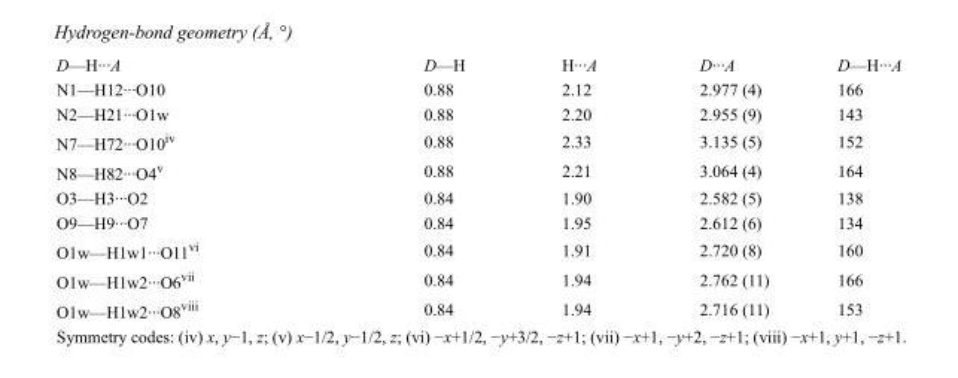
<table><tbody><tr><td>D—H···A</td><td>D—H</td><td>H···A</td><td>D···A</td><td>D—H···A</td></tr><tr><td>N1—H12···O10</td><td>0.88</td><td>2.12</td><td>2.977 (4)</td><td>166</td></tr><tr><td>N2—H21···O1w</td><td>0.88</td><td>2.20</td><td>2.955 (9)</td><td>143</td></tr><tr><td>N7—H72···O10<sup>iv</sup></td><td>0.88</td><td>2.33</td><td>3.135 (5)</td><td>152</td></tr><tr><td>N8—H82···O4<sup>v</sup></td><td>0.88</td><td>2.21</td><td>3.064 (4)</td><td>164</td></tr><tr><td>O3—H3···O2</td><td>0.84</td><td>1.90</td><td>2.582 (5)</td><td>138</td></tr><tr><td>O9—H9···O7</td><td>0.84</td><td>1.95</td><td>2.612 (6)</td><td>134</td></tr><tr><td>O1w—H1w1···O11<sup>vi</sup></td><td>0.84</td><td>1.91</td><td>2.720 (8)</td><td>160</td></tr><tr><td>O1w—H1w2···O6<sup>vii</sup></td><td>0.84</td><td>1.94</td><td>2.762 (11)</td><td>166</td></tr><tr><td>O1w—H1w2···O8<sup>viii</sup></td><td>0.84</td><td>1.94</td><td>2.716 (11)</td><td>153</td></tr></tbody></table>